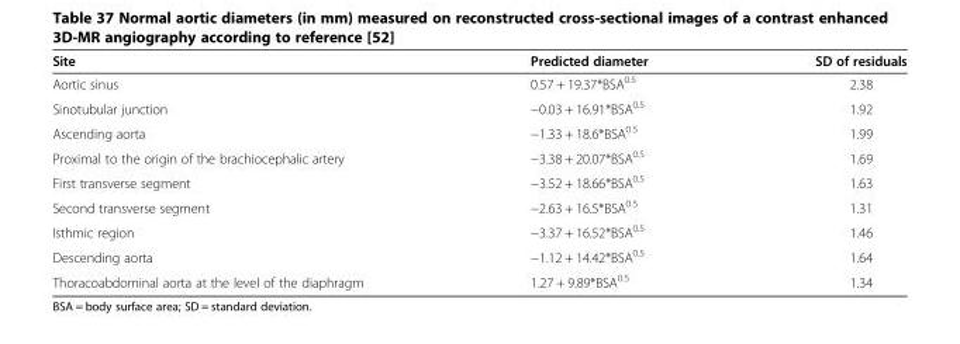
<table><thead><tr><td>Site</td><td>Predicted diameter</td><td>SD of residuals</td></tr></thead><tbody><tr><td>Aortic sinus</td><td>0.57 + 19.37*BSA<sup>0.5</sup></td><td>2.38</td></tr><tr><td>Sinotubular junction</td><td>−0.03 + 16.91*BSA<sup>0.5</sup></td><td>1.92</td></tr><tr><td>Ascending aorta</td><td>−1.33 + 18.6*BSA<sup>0.5</sup></td><td>1.99</td></tr><tr><td>Proximal to the origin of the brachiocephalic artery</td><td>−3.38 + 20.07*BSA<sup>0.5</sup></td><td>1.69</td></tr><tr><td>First transverse segment</td><td>−3.52 + 18.66*BSA<sup>0.5</sup></td><td>1.63</td></tr><tr><td>Second transverse segment</td><td>−2.63 + 16.5*BSA<sup>0.5</sup></td><td>1.31</td></tr><tr><td>Isthmic region</td><td>−3.37 + 16.52*BSA<sup>0.5</sup></td><td>1.46</td></tr><tr><td>Descending aorta</td><td>−1.12 + 14.42*BSA<sup>0.5</sup></td><td>1.64</td></tr><tr><td>Thoracoabdominal aorta at the level of the diaphragm</td><td>1.27 + 9.89*BSA<sup>0.5</sup></td><td>1.34</td></tr></tbody></table>